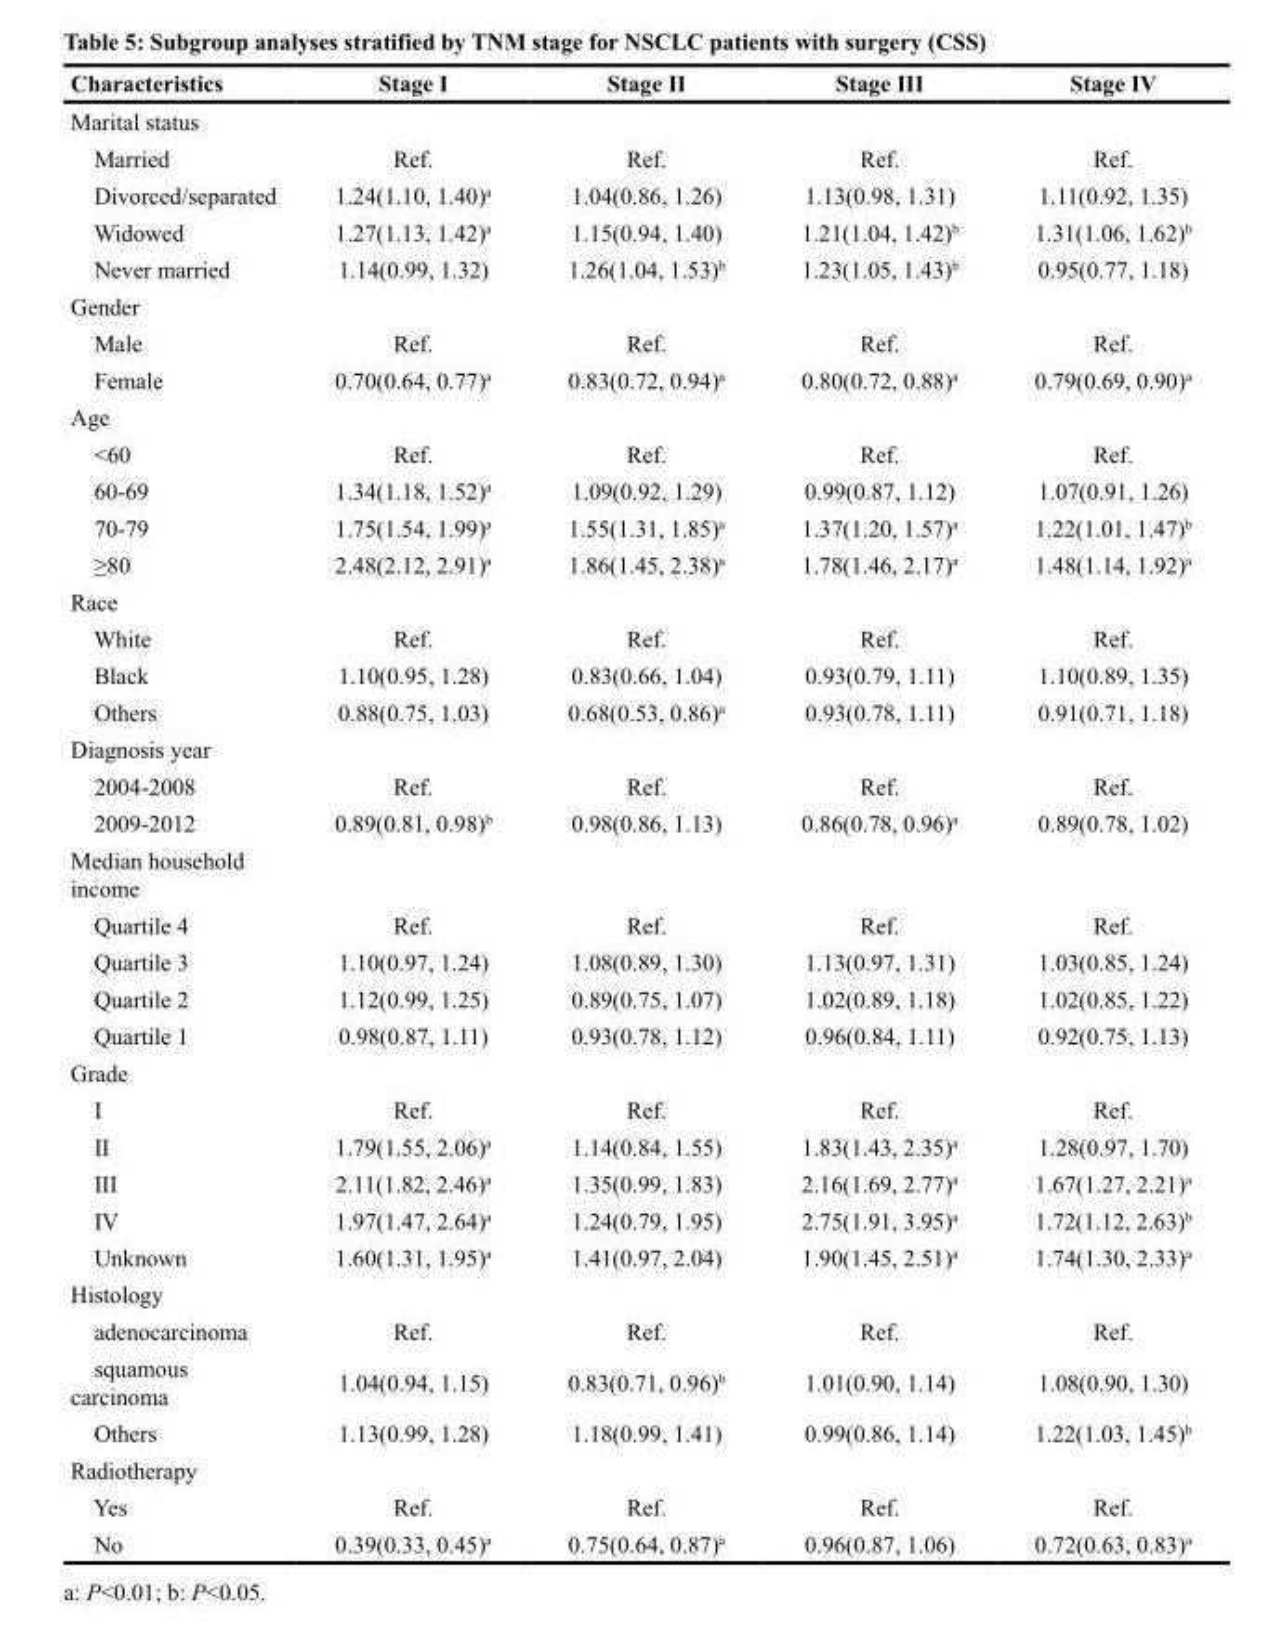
<table><thead><tr><td>Characteristics</td><td>Stage I</td><td>Stage II</td><td>Stage III</td><td>Stage IV</td></tr></thead><tbody><tr><td colspan="5">Marital status</td></tr><tr><td>Married</td><td>Ref.</td><td>Ref.</td><td>Ref.</td><td>Ref.</td></tr><tr><td>Divorced/separated</td><td>1.24(1.10, 1.40)<sup>a</sup></td><td>1.04(0.86, 1.26)</td><td>1.13(0.98, 1.31)</td><td>1.11(0.92, 1.35)</td></tr><tr><td>Widowed</td><td>1.27(1.13, 1.42)<sup>a</sup></td><td>1.15(0.94, 1.40)</td><td>1.21(1.04, 1.42)<sup>b</sup></td><td>1.31(1.06, 1.62)<sup>b</sup></td></tr><tr><td>Never married</td><td>1.14(0.99, 1.32)</td><td>1.26(1.04, 1.53)<sup>b</sup></td><td>1.23(1.05, 1.43)<sup>b</sup></td><td>0.95(0.77, 1.18)</td></tr><tr><td colspan="5">Gender</td></tr><tr><td>Male</td><td>Ref.</td><td>Ref.</td><td>Ref.</td><td>Ref.</td></tr><tr><td>Female</td><td>0.70(0.64, 0.77)<sup>a</sup></td><td>0.83(0.72, 0.94)<sup>a</sup></td><td>0.80(0.72, 0.88)<sup>a</sup></td><td>0.79(0.69, 0.90)<sup>a</sup></td></tr><tr><td colspan="5">Age</td></tr><tr><td>&lt;60</td><td>Ref.</td><td>Ref.</td><td>Ref.</td><td>Ref.</td></tr><tr><td>60-69</td><td>1.34(1.18, 1.52)<sup>a</sup></td><td>1.09(0.92, 1.29)</td><td>0.99(0.87, 1.12)</td><td>1.07(0.91, 1.26)</td></tr><tr><td>70-79</td><td>1.75(1.54, 1.99)<sup>a</sup></td><td>1.55(1.31, 1.85)<sup>a</sup></td><td>1.37(1.20, 1.57)<sup>a</sup></td><td>1.22(1.01, 1.47)<sup>b</sup></td></tr><tr><td>≥80</td><td>2.48(2.12, 2.91)<sup>a</sup></td><td>1.86(1.45, 2.38)<sup>a</sup></td><td>1.78(1.46, 2.17)<sup>a</sup></td><td>1.48(1.14, 1.92)<sup>a</sup></td></tr><tr><td colspan="5">Race</td></tr><tr><td>White</td><td>Ref.</td><td>Ref.</td><td>Ref.</td><td>Ref.</td></tr><tr><td>Black</td><td>1.10(0.95, 1.28)</td><td>0.83(0.66, 1.04)</td><td>0.93(0.79, 1.11)</td><td>1.10(0.89, 1.35)</td></tr><tr><td>Others</td><td>0.88(0.75, 1.03)</td><td>0.68(0.53, 0.86)<sup>a</sup></td><td>0.93(0.78, 1.11)</td><td>0.91(0.71, 1.18)</td></tr><tr><td colspan="5">Diagnosis year</td></tr><tr><td>2004-2008</td><td>Ref.</td><td>Ref.</td><td>Ref.</td><td>Ref.</td></tr><tr><td>2009-2012</td><td>0.89(0.81, 0.98)<sup>b</sup></td><td>0.98(0.86, 1.13)</td><td>0.86(0.78, 0.96)<sup>a</sup></td><td>0.89(0.78, 1.02)</td></tr><tr><td colspan="5">Median household income</td></tr><tr><td>Quartile 4</td><td>Ref.</td><td>Ref.</td><td>Ref.</td><td>Ref.</td></tr><tr><td>Quartile 3</td><td>1.10(0.97, 1.24)</td><td>1.08(0.89, 1.30)</td><td>1.13(0.97, 1.31)</td><td>1.03(0.85, 1.24)</td></tr><tr><td>Quartile 2</td><td>1.12(0.99, 1.25)</td><td>0.89(0.75, 1.07)</td><td>1.02(0.89, 1.18)</td><td>1.02(0.85, 1.22)</td></tr><tr><td>Quartile 1</td><td>0.98(0.87, 1.11)</td><td>0.93(0.78, 1.12)</td><td>0.96(0.84, 1.11)</td><td>0.92(0.75, 1.13)</td></tr><tr><td colspan="5">Grade</td></tr><tr><td>I</td><td>Ref.</td><td>Ref.</td><td>Ref.</td><td>Ref.</td></tr><tr><td>II</td><td>1.79(1.55, 2.06)<sup>a</sup></td><td>1.14(0.84, 1.55)</td><td>1.83(1.43, 2.35)<sup>a</sup></td><td>1.28(0.97, 1.70)</td></tr><tr><td>III</td><td>2.11(1.82, 2.46)<sup>a</sup></td><td>1.35(0.99, 1.83)</td><td>2.16(1.69, 2.77)<sup>a</sup></td><td>1.67(1.27, 2.21)<sup>a</sup></td></tr><tr><td>IV</td><td>1.97(1.47, 2.64)<sup>a</sup></td><td>1.24(0.79, 1.95)</td><td>2.75(1.91, 3.95)<sup>a</sup></td><td>1.72(1.12, 2.63)<sup>b</sup></td></tr><tr><td>Unknown</td><td>1.60(1.31, 1.95)<sup>a</sup></td><td>1.41(0.97, 2.04)</td><td>1.90(1.45, 2.51)<sup>a</sup></td><td>1.74(1.30, 2.33)<sup>a</sup></td></tr><tr><td colspan="5">Histology</td></tr><tr><td>adenocarcinoma</td><td>Ref.</td><td>Ref.</td><td>Ref.</td><td>Ref.</td></tr><tr><td>squamous carcinoma</td><td>1.04(0.94, 1.15)</td><td>0.83(0.71, 0.96)<sup>b</sup></td><td>1.01(0.90, 1.14)</td><td>1.08(0.90, 1.30)</td></tr><tr><td>Others</td><td>1.13(0.99, 1.28)</td><td>1.18(0.99, 1.41)</td><td>0.99(0.86, 1.14)</td><td>1.22(1.03, 1.45)<sup>b</sup></td></tr><tr><td colspan="5">Radiotherapy</td></tr><tr><td>Yes</td><td>Ref.</td><td>Ref.</td><td>Ref.</td><td>Ref.</td></tr><tr><td>No</td><td>0.39(0.33, 0.45)<sup>a</sup></td><td>0.75(0.64, 0.87)<sup>a</sup></td><td>0.96(0.87, 1.06)</td><td>0.72(0.63, 0.83)<sup>a</sup></td></tr></tbody></table>